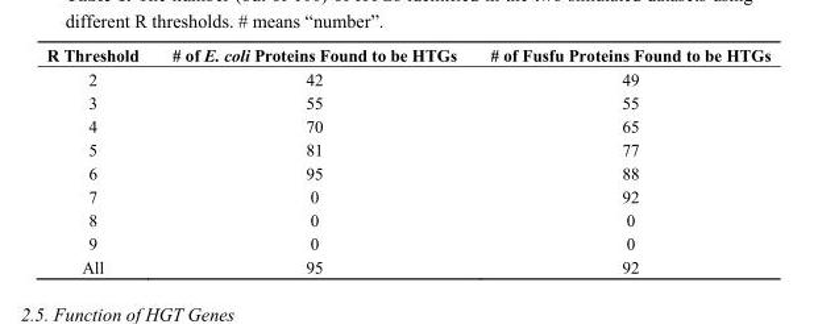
<table><thead><tr><td>R Threshold</td><td># of E. coli Proteins Found to be HTGs</td><td># of Fusfu Proteins Found to be HTGs</td></tr></thead><tbody><tr><td>2</td><td>42</td><td>49</td></tr><tr><td>3</td><td>55</td><td>55</td></tr><tr><td>4</td><td>70</td><td>65</td></tr><tr><td>5</td><td>81</td><td>77</td></tr><tr><td>6</td><td>95</td><td>88</td></tr><tr><td>7</td><td>0</td><td>92</td></tr><tr><td>8</td><td>0</td><td>0</td></tr><tr><td>9</td><td>0</td><td>0</td></tr><tr><td>All</td><td>95</td><td>92</td></tr></tbody></table>